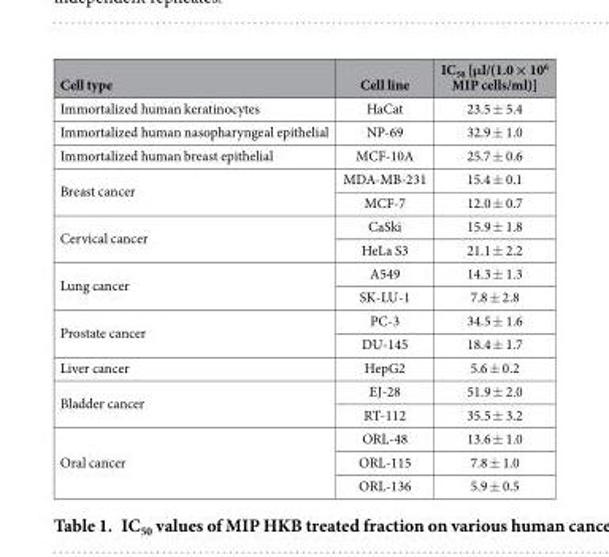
<table><thead><tr><td>Cell type</td><td>Cell line</td><td>IC<sub>50</sub> [μl/(1.0 × 10<sup>6</sup> MIP cells/ml)]</td></tr></thead><tbody><tr><td>Immortalized human keratinocytes</td><td>HaCat</td><td>23.5 ± 5.4</td></tr><tr><td>Immortalized human nasopharyngeal epithelial</td><td>NP-69</td><td>32.9 ± 1.0</td></tr><tr><td>Immortalized human breast epithelial</td><td>MCF-10A</td><td>25.7 ± 0.6</td></tr><tr><td rowspan="2">Breast cancer</td><td>MDA-MB-231</td><td>15.4 ± 0.1</td></tr><tr><td>MCF-7</td><td>12.0 ± 0.7</td></tr><tr><td rowspan="2">Cervical cancer</td><td>CaSki</td><td>15.9 ± 1.8</td></tr><tr><td>HeLa S3</td><td>21.1 ± 2.2</td></tr><tr><td rowspan="2">Lung cancer</td><td>A549</td><td>14.3 ± 1.3</td></tr><tr><td>SK-LU-1</td><td>7.8 ± 2.8</td></tr><tr><td rowspan="2">Prostate cancer</td><td>PC-3</td><td>34.5 ± 1.6</td></tr><tr><td>DU-145</td><td>18.4 ± 1.7</td></tr><tr><td>Liver cancer</td><td>HepG2</td><td>5.6 ± 0.2</td></tr><tr><td rowspan="2">Bladder cancer</td><td>EJ-28</td><td>51.9 ± 2.0</td></tr><tr><td>RT-112</td><td>35.5 ± 3.2</td></tr><tr><td rowspan="3">Oral cancer</td><td>ORL-48</td><td>13.6 ± 1.0</td></tr><tr><td>ORL-115</td><td>7.8 ± 1.0</td></tr><tr><td>ORL-136</td><td>5.9 ± 0.5</td></tr></tbody></table>